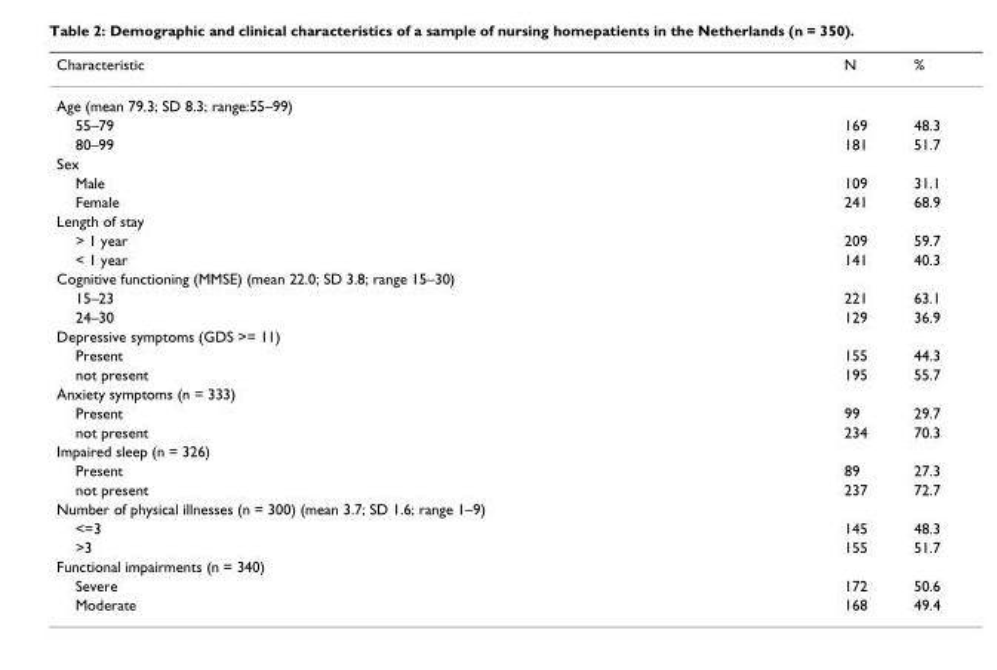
<table><thead><tr><td>Characteristic</td><td>N</td><td>%</td></tr></thead><tbody><tr><td colspan="3">Age (mean 79.3; SD 8.3; range:55–99)</td></tr><tr><td>55–79</td><td>169</td><td>48.3</td></tr><tr><td>80–99</td><td>181</td><td>51.7</td></tr><tr><td colspan="3">Sex</td></tr><tr><td>Male</td><td>109</td><td>31.1</td></tr><tr><td>Female</td><td>241</td><td>68.9</td></tr><tr><td colspan="3">Length of stay</td></tr><tr><td>&gt; 1 year</td><td>209</td><td>59.7</td></tr><tr><td>&lt; 1 year</td><td>141</td><td>40.3</td></tr><tr><td colspan="3">Cognitive functioning (MMSE) (mean 22.0; SD 3.8; range 15–30)</td></tr><tr><td>15–23</td><td>221</td><td>63.1</td></tr><tr><td>24–30</td><td>129</td><td>36.9</td></tr><tr><td colspan="3">Depressive symptoms (GDS &gt;= 11)</td></tr><tr><td>Present</td><td>155</td><td>44.3</td></tr><tr><td>not present</td><td>195</td><td>55.7</td></tr><tr><td colspan="3">Anxiety symptoms (n = 333)</td></tr><tr><td>Present</td><td>99</td><td>29.7</td></tr><tr><td>not present</td><td>234</td><td>70.3</td></tr><tr><td colspan="3">Impaired sleep (n = 326)</td></tr><tr><td>Present</td><td>89</td><td>27.3</td></tr><tr><td>not present</td><td>237</td><td>72.7</td></tr><tr><td colspan="3">Number of physical illnesses (n = 300) (mean 3.7; SD 1.6; range 1–9)</td></tr><tr><td>&lt;=3</td><td>145</td><td>48.3</td></tr><tr><td>&gt;3</td><td>155</td><td>51.7</td></tr><tr><td colspan="3">Functional impairments (n = 340)</td></tr><tr><td>Severe</td><td>172</td><td>50.6</td></tr><tr><td>Moderate</td><td>168</td><td>49.4</td></tr></tbody></table>